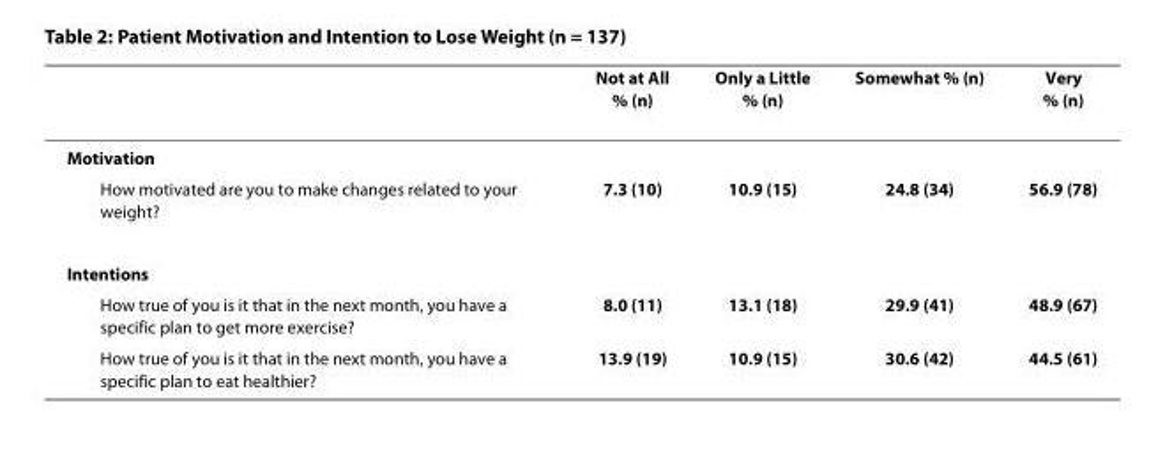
<table><thead><tr><td></td><td>Not at All % (n)</td><td>Only a Little % (n)</td><td>Somewhat % (n)</td><td>Very % (n)</td></tr></thead><tbody><tr><td colspan="5">Motivation</td></tr><tr><td>How motivated are you to make changes related to your weight?</td><td>7.3 (10)</td><td>10.9 (15)</td><td>24.8 (34)</td><td>56.9 (78)</td></tr><tr><td colspan="5">Intentions</td></tr><tr><td>How true of you is it that in the next month, you have a specific plan to get more exercise?</td><td>8.0 (11)</td><td>13.1 (18)</td><td>29.9 (41)</td><td>48.9 (67)</td></tr><tr><td>How true of you is it that in the next month, you have a specific plan to eat healthier?</td><td>13.9 (19)</td><td>10.9 (15)</td><td>30.6 (42)</td><td>44.5 (61)</td></tr></tbody></table>